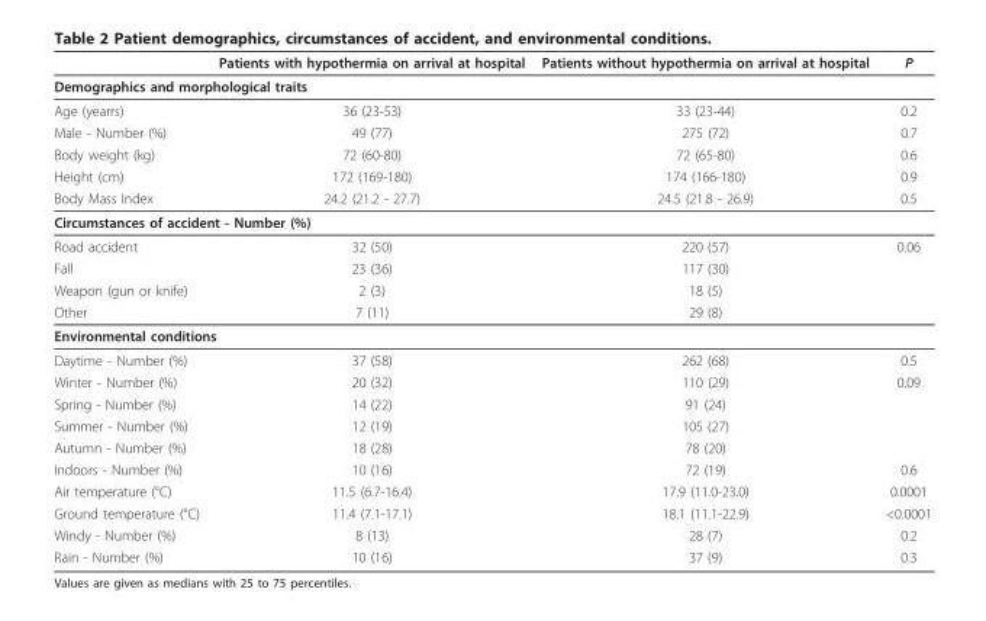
<table><thead><tr><td></td><td>Patients with hypothermia on arrival at hospital</td><td>Patients without hypothermia on arrival at hospital</td><td>P</td></tr></thead><tbody><tr><td colspan="4">Demographics and morphological traits</td></tr><tr><td>Age (yearrs)</td><td>36 (23-53)</td><td>33 (23-44)</td><td>0.2</td></tr><tr><td>Male - Number (%)</td><td>49 (77)</td><td>275 (72)</td><td>0.7</td></tr><tr><td>Body weight (kg)</td><td>72 (60-80)</td><td>72 (65-80)</td><td>0.6</td></tr><tr><td>Height (cm)</td><td>172 (169-180)</td><td>174 (166-180)</td><td>0.9</td></tr><tr><td>Body Mass Index</td><td>24.2 (21.2 - 27.7)</td><td>24.5 (21.8 - 26.9)</td><td>0.5</td></tr><tr><td colspan="4">Circumstances of accident - Number (%)</td></tr><tr><td>Road accident</td><td>32 (50)</td><td>220 (57)</td><td>0.06</td></tr><tr><td>Fall</td><td>23 (36)</td><td>117 (30)</td><td></td></tr><tr><td>Weapon (gun or knife)</td><td>2 (3)</td><td>18 (5)</td><td></td></tr><tr><td>Other</td><td>7 (11)</td><td>29 (8)</td><td></td></tr><tr><td colspan="4">Environmental conditions</td></tr><tr><td>Daytime - Number (%)</td><td>37 (58)</td><td>262 (68)</td><td>0.5</td></tr><tr><td>Winter - Number (%)</td><td>20 (32)</td><td>110 (29)</td><td>0.09</td></tr><tr><td>Spring - Number (%)</td><td>14 (22)</td><td>91 (24)</td><td></td></tr><tr><td>Summer - Number (%)</td><td>12 (19)</td><td>105 (27)</td><td></td></tr><tr><td>Autumn - Number (%)</td><td>18 (28)</td><td>78 (20)</td><td></td></tr><tr><td>Indoors - Number (%)</td><td>10 (16)</td><td>72 (19)</td><td>0.6</td></tr><tr><td>Air temperature (°C)</td><td>11.5 (6.7-16.4)</td><td>17.9 (11.0-23.0)</td><td>0.0001</td></tr><tr><td>Ground temperature (°C)</td><td>11.4 (7.1-17.1)</td><td>18.1 (11.1-22.9)</td><td>&lt;0.0001</td></tr><tr><td>Windy - Number (%)</td><td>8 (13)</td><td>28 (7)</td><td>0.2</td></tr><tr><td>Rain - Number (%)</td><td>10 (16)</td><td>37 (9)</td><td>0.3</td></tr></tbody></table>